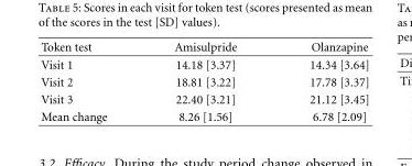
<table><thead><tr><td>Token test</td><td>Amisulpride</td><td>Olanzapine</td></tr></thead><tbody><tr><td>Visit 1</td><td>14.18 [3.37]</td><td>14.34 [3.64]</td></tr><tr><td>Visit 2</td><td>18.81 [3.22]</td><td>17.78 [3.37]</td></tr><tr><td>Visit 3</td><td>22.40 [3.21]</td><td>21.12 [3.45]</td></tr><tr><td>Mean change</td><td>8.26 [1.56]</td><td>6.78 [2.09]</td></tr></tbody></table>